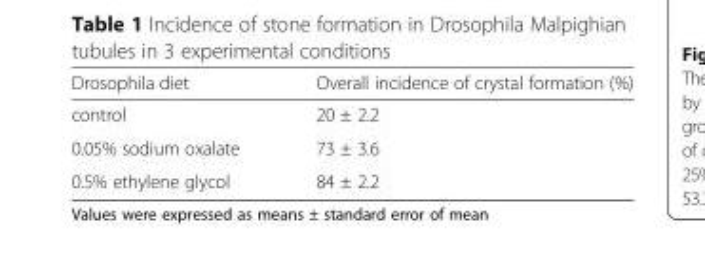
<table><thead><tr><td>Drosophila diet</td><td>Overall incidence of crystal formation (%)</td></tr></thead><tbody><tr><td>control</td><td>20 ± 2.2</td></tr><tr><td>0.05% sodium oxalate</td><td>73 ± 3.6</td></tr><tr><td>0.5% ethylene glycol</td><td>84 ± 2.2</td></tr></tbody></table>